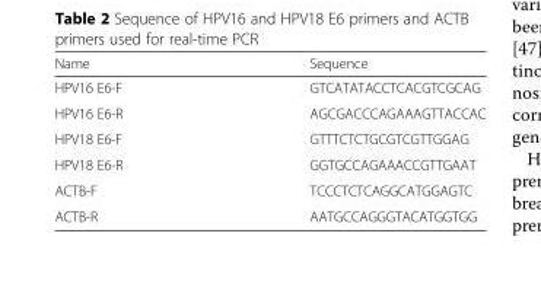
<table><thead><tr><td>Name</td><td>Sequence</td></tr></thead><tbody><tr><td>HPV16 E6-F</td><td>GTCATATACCTCACGTCGCAG</td></tr><tr><td>HPV16 E6-R</td><td>AGCGACCCAGAAAGTTACCAC</td></tr><tr><td>HPV18 E6-F</td><td>GTTTCTCTGCGTCGTTGGAG</td></tr><tr><td>HPV18 E6-R</td><td>GGTGCCAGAAACCGTTGAAT</td></tr><tr><td>ACTB-F</td><td>TCCCTCTCAGGCATGGAGTC</td></tr><tr><td>ACTB-R</td><td>AATGCCAGGGTACATGGTGG</td></tr></tbody></table>